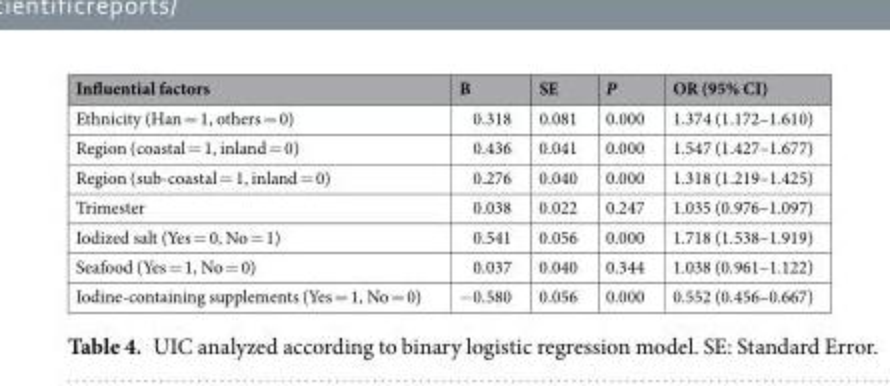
<table><thead><tr><td>Influential factors</td><td>B</td><td>SE</td><td>P</td><td>OR (95% CI)</td></tr></thead><tbody><tr><td>Ethnicity (Han = 1, others = 0)</td><td>0.318</td><td>0.081</td><td>0.000</td><td>1.374 (1.172–1.610)</td></tr><tr><td>Region (coastal = 1, inland = 0)</td><td>0.436</td><td>0.041</td><td>0.000</td><td>1.547 (1.427–1.677)</td></tr><tr><td>Region (sub-coastal = 1, inland = 0)</td><td>0.276</td><td>0.040</td><td>0.000</td><td>1.318 (1.219–1.425)</td></tr><tr><td>Trimester</td><td>0.038</td><td>0.022</td><td>0.247</td><td>1.035 (0.976–1.097)</td></tr><tr><td>Iodized salt (Yes = 0, No = 1)</td><td>0.541</td><td>0.056</td><td>0.000</td><td>1.718 (1.538–1.919)</td></tr><tr><td>Seafood (Yes = 1, No = 0)</td><td>0.037</td><td>0.040</td><td>0.344</td><td>1.038 (0.961–1.122)</td></tr><tr><td>Iodine-containing supplements (Yes = 1, No = 0)</td><td>−0.580</td><td>0.056</td><td>0.000</td><td>0.552 (0.456–0.667)</td></tr></tbody></table>